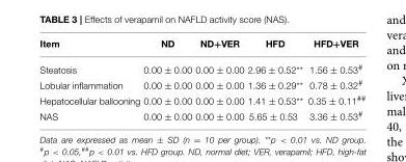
<table><thead><tr><td>Item</td><td>ND</td><td>ND+VER</td><td>HFD</td><td>HFD+VER</td></tr></thead><tbody><tr><td>Steatosis</td><td>0.00 ± 0.00</td><td>0.00 ± 0.00</td><td>2.96 ± 0.52**</td><td>1.56 ± 0.53<sup>#</sup></td></tr><tr><td>Lobular inflammation</td><td>0.00 ± 0.00</td><td>0.00 ± 0.00</td><td>1.36 ± 0.29**</td><td>0.78 ± 0.32<sup>#</sup></td></tr><tr><td>Hepatocellular ballooning</td><td>0.00 ± 0.00</td><td>0.00 ± 0.00</td><td>1.41 ± 0.53**</td><td>0.35 ± 0.11<sup>##</sup></td></tr><tr><td>NAS</td><td>0.00 ± 0.00</td><td>0.00 ± 0.00</td><td>5.65 ± 0.53</td><td>3.36 ± 0.53<sup>#</sup></td></tr></tbody></table>